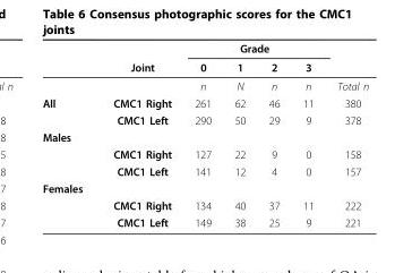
<table><thead><tr><td rowspan="2"></td><td rowspan="2">Joint</td><td colspan="4">Grade</td><td rowspan="2"></td></tr><tr><td>0</td><td>1</td><td>2</td><td>3</td></tr></thead><tbody><tr><td></td><td></td><td>n</td><td>N</td><td>n</td><td>n</td><td>Total n</td></tr><tr><td rowspan="2">All</td><td>CMC1 Right</td><td>261</td><td>62</td><td>46</td><td>11</td><td>380</td></tr><tr><td>CMC1 Left</td><td>290</td><td>50</td><td>29</td><td>9</td><td>378</td></tr><tr><td colspan="7">Males</td></tr><tr><td></td><td>CMC1 Right</td><td>127</td><td>22</td><td>9</td><td>0</td><td>158</td></tr><tr><td></td><td>CMC1 Left</td><td>141</td><td>12</td><td>4</td><td>0</td><td>157</td></tr><tr><td colspan="7">Females</td></tr><tr><td></td><td>CMC1 Right</td><td>134</td><td>40</td><td>37</td><td>11</td><td>222</td></tr><tr><td></td><td>CMC1 Left</td><td>149</td><td>38</td><td>25</td><td>9</td><td>221</td></tr></tbody></table>